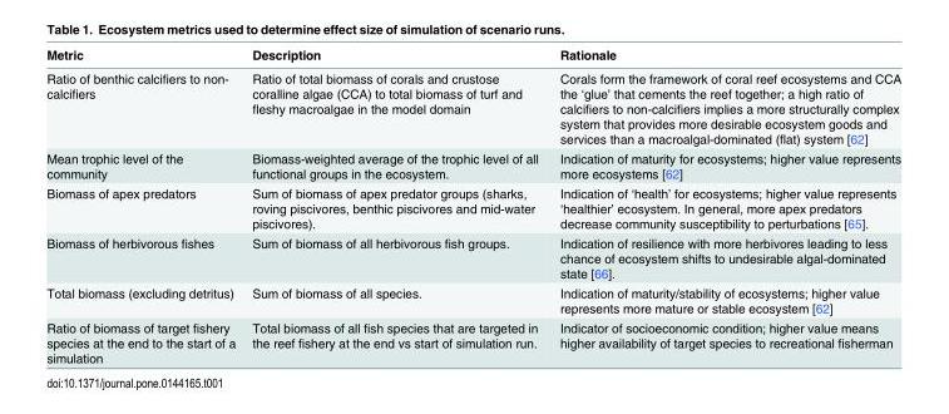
<table><thead><tr><td>Metric</td><td>Description</td><td>Rationale</td></tr></thead><tbody><tr><td>Ratio of benthic calcifiers to non- calcifiers</td><td>Ratio of total biomass of corals and crustose coralline algae (CCA) to total biomass of turf and fleshy macroalgae in the model domain</td><td>Corals form the framework of coral reef ecosystems and CCA the ‘glue’ that cements the reef together; a high ratio of calcifiers to non-calcifiers implies a more structurally complex system that provides more desirable ecosystem goods and services than a macroalgal-dominated (flat) system [62]</td></tr><tr><td>Mean trophic level of the community</td><td>Biomass-weighted average of the trophic level of all functional groups in the ecosystem.</td><td>Indication of maturity for ecosystems; higher value represents more ecosystems [62]</td></tr><tr><td>Biomass of apex predators</td><td>Sum of biomass of apex predator groups (sharks, roving piscivores, benthic piscivores and mid-water piscivores).</td><td>Indication of ‘health’ for ecosystems; higher value represents ‘healthier’ ecosystem. In general, more apex predators decrease community susceptibility to perturbations [65].</td></tr><tr><td>Biomass of herbivorous fishes</td><td>Sum of biomass of all herbivorous fish groups.</td><td>Indication of resilience with more herbivores leading to less chance of ecosystem shifts to undesirable algal-dominated state [66].</td></tr><tr><td>Total biomass (excluding detritus)</td><td>Sum of biomass of all species.</td><td>Indication of maturity/stability of ecosystems; higher value represents more mature or stable ecosystem [62]</td></tr><tr><td>Ratio of biomass of target fishery species at the end to the start of a simulation</td><td>Total biomass of all fish species that are targeted in the reef fishery at the end vs start of simulation run.</td><td>Indicator of socioeconomic condition; higher value means higher availability of target species to recreational fisherman</td></tr></tbody></table>